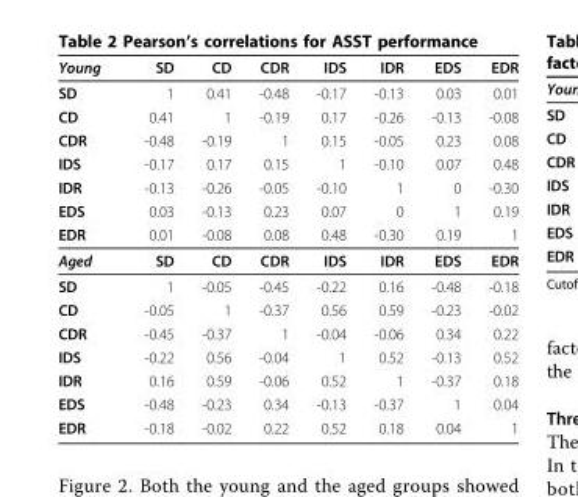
<table><thead><tr><td>Young</td><td>SD</td><td>CD</td><td>CDR</td><td>IDS</td><td>IDR</td><td>EDS</td><td>EDR</td></tr></thead><tbody><tr><td>SD</td><td>1</td><td>0.41</td><td>-0.48</td><td>-0.17</td><td>-0.13</td><td>0.03</td><td>0.01</td></tr><tr><td>CD</td><td>0.41</td><td>1</td><td>-0.19</td><td>0.17</td><td>-0.26</td><td>-0.13</td><td>-0.08</td></tr><tr><td>CDR</td><td>-0.48</td><td>-0.19</td><td>1</td><td>0.15</td><td>-0.05</td><td>0.23</td><td>0.08</td></tr><tr><td>IDS</td><td>-0.17</td><td>0.17</td><td>0.15</td><td>1</td><td>-0.10</td><td>0.07</td><td>0.48</td></tr><tr><td>IDR</td><td>-0.13</td><td>-0.26</td><td>-0.05</td><td>-0.10</td><td>1</td><td>0</td><td>-0.30</td></tr><tr><td>EDS</td><td>0.03</td><td>-0.13</td><td>0.23</td><td>0.07</td><td>0</td><td>1</td><td>0.19</td></tr><tr><td>EDR</td><td>0.01</td><td>-0.08</td><td>0.08</td><td>0.48</td><td>-0.30</td><td>0.19</td><td>1</td></tr><tr><td>Aged</td><td>SD</td><td>CD</td><td>CDR</td><td>IDS</td><td>IDR</td><td>EDS</td><td>EDR</td></tr><tr><td>SD</td><td>1</td><td>-0.05</td><td>-0.45</td><td>-0.22</td><td>0.16</td><td>-0.48</td><td>-0.18</td></tr><tr><td>CD</td><td>-0.05</td><td>1</td><td>-0.37</td><td>0.56</td><td>0.59</td><td>-0.23</td><td>-0.02</td></tr><tr><td>CDR</td><td>-0.45</td><td>-0.37</td><td>1</td><td>-0.04</td><td>-0.06</td><td>0.34</td><td>0.22</td></tr><tr><td>IDS</td><td>-0.22</td><td>0.56</td><td>-0.04</td><td>1</td><td>0.52</td><td>-0.13</td><td>0.52</td></tr><tr><td>IDR</td><td>0.16</td><td>0.59</td><td>-0.06</td><td>0.52</td><td>1</td><td>-0.37</td><td>0.18</td></tr><tr><td>EDS</td><td>-0.48</td><td>-0.23</td><td>0.34</td><td>-0.13</td><td>-0.37</td><td>1</td><td>0.04</td></tr><tr><td>EDR</td><td>-0.18</td><td>-0.02</td><td>0.22</td><td>0.52</td><td>0.18</td><td>0.04</td><td>1</td></tr></tbody></table>